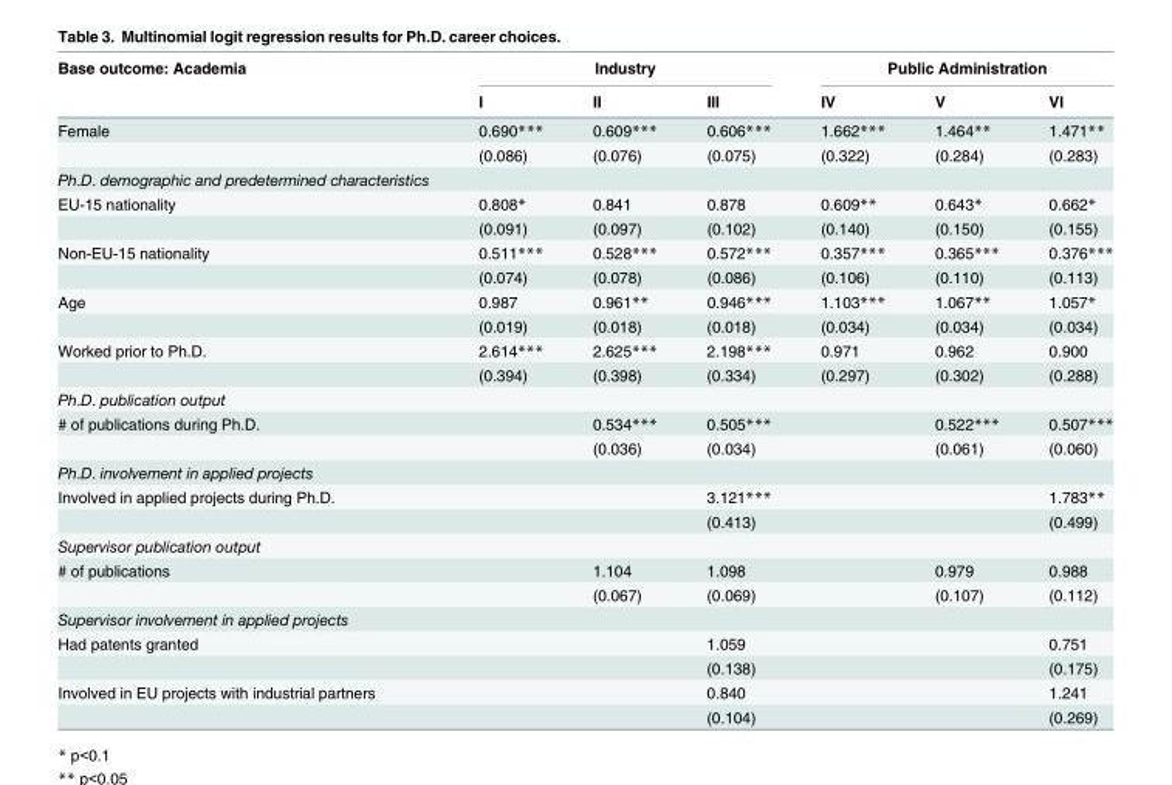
<table><thead><tr><td rowspan="2">Base outcome: Academia</td><td colspan="3">Industry</td><td colspan="3">Public Administration</td></tr><tr><td>I</td><td>II</td><td>III</td><td>IV</td><td>V</td><td>VI</td></tr></thead><tbody><tr><td rowspan="2">Female</td><td>0.690***</td><td>0.609***</td><td>0.606***</td><td>1.662***</td><td>1.464**</td><td>1.471**</td></tr><tr><td>(0.086)</td><td>(0.076)</td><td>(0.075)</td><td>(0.322)</td><td>(0.284)</td><td>(0.283)</td></tr><tr><td colspan="7">Ph.D. demographic and predetermined characteristics</td></tr><tr><td rowspan="2">EU-15 nationality</td><td>0.808*</td><td>0.841</td><td>0.878</td><td>0.609**</td><td>0.643*</td><td>0.662*</td></tr><tr><td>(0.091)</td><td>(0.097)</td><td>(0.102)</td><td>(0.140)</td><td>(0.150)</td><td>(0.155)</td></tr><tr><td rowspan="2">Non-EU-15 nationality</td><td>0.511***</td><td>0.528***</td><td>0.572***</td><td>0.357***</td><td>0.365***</td><td>0.376***</td></tr><tr><td>(0.074)</td><td>(0.078)</td><td>(0.086)</td><td>(0.106)</td><td>(0.110)</td><td>(0.113)</td></tr><tr><td rowspan="2">Age</td><td>0.987</td><td>0.961**</td><td>0.946***</td><td>1.103***</td><td>1.067**</td><td>1.057*</td></tr><tr><td>(0.019)</td><td>(0.018)</td><td>(0.018)</td><td>(0.034)</td><td>(0.034)</td><td>(0.034)</td></tr><tr><td rowspan="2">Worked prior to Ph.D.</td><td>2.614***</td><td>2.625***</td><td>2.198***</td><td>0.971</td><td>0.962</td><td>0.900</td></tr><tr><td>(0.394)</td><td>(0.398)</td><td>(0.334)</td><td>(0.297)</td><td>(0.302)</td><td>(0.288)</td></tr><tr><td colspan="7">Ph.D. publication output</td></tr><tr><td rowspan="2"># of publications during Ph.D.</td><td></td><td>0.534***</td><td>0.505***</td><td></td><td>0.522***</td><td>0.507***</td></tr><tr><td></td><td>(0.036)</td><td>(0.034)</td><td></td><td>(0.061)</td><td>(0.060)</td></tr><tr><td colspan="7">Ph.D. involvement in applied projects</td></tr><tr><td rowspan="2">Involved in applied projects during Ph.D.</td><td></td><td></td><td>3.121***</td><td></td><td></td><td>1.783**</td></tr><tr><td></td><td></td><td>(0.413)</td><td></td><td></td><td>(0.499)</td></tr><tr><td colspan="7">Supervisor publication output</td></tr><tr><td rowspan="2"># of publications</td><td></td><td>1.104</td><td>1.098</td><td></td><td>0.979</td><td>0.988</td></tr><tr><td></td><td>(0.067)</td><td>(0.069)</td><td></td><td>(0.107)</td><td>(0.112)</td></tr><tr><td colspan="7">Supervisor involvement in applied projects</td></tr><tr><td rowspan="2">Had patents granted</td><td></td><td></td><td>1.059</td><td></td><td></td><td>0.751</td></tr><tr><td></td><td></td><td>(0.138)</td><td></td><td></td><td>(0.175)</td></tr><tr><td rowspan="2">Involved in EU projects with industrial partners</td><td></td><td></td><td>0.840</td><td></td><td></td><td>1.241</td></tr><tr><td></td><td></td><td>(0.104)</td><td></td><td></td><td>(0.269)</td></tr></tbody></table>